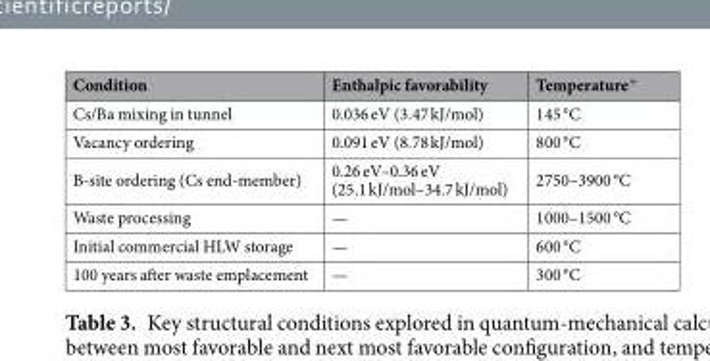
<table><thead><tr><td>Condition</td><td>Enthalpic favorability</td><td>Temperature<sup>+</sup></td></tr></thead><tbody><tr><td>Cs/Ba mixing in tunnel</td><td>0.036 eV (3.47 kJ/mol)</td><td>145 °C</td></tr><tr><td>Vacancy ordering</td><td>0.091 eV (8.78 kJ/mol)</td><td>800 °C</td></tr><tr><td>B-site ordering (Cs end-member)</td><td>0.26 eV–0.36 eV (25.1 kJ/mol–34.7 kJ/mol)</td><td>2750–3900 °C</td></tr><tr><td>Waste processing</td><td>—</td><td>1000–1500 °C</td></tr><tr><td>Initial commercial HLW storage</td><td>—</td><td>600 °C</td></tr><tr><td>100 years after waste emplacement</td><td>—</td><td>300 °C</td></tr></tbody></table>